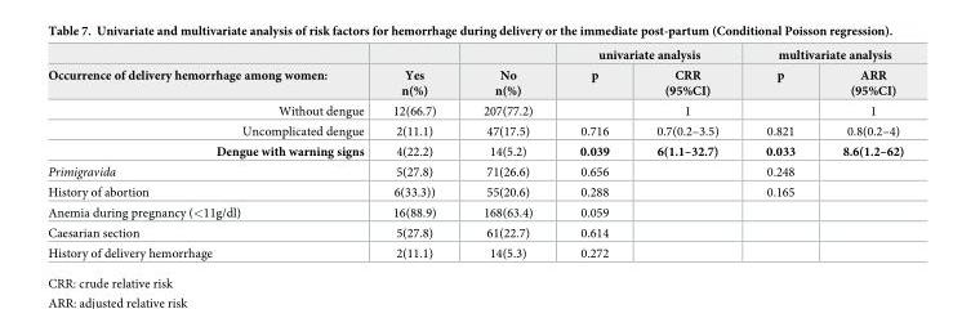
<table><thead><tr><td rowspan="2">Occurrence of delivery hemorrhage among women:</td><td rowspan="2">Yes n(%)</td><td rowspan="2">No n(%)</td><td colspan="2">univariate analysis</td><td colspan="2">multivariate analysis</td></tr><tr><td>p</td><td>CRR (95%CI)</td><td>p</td><td>ARR (95%CI)</td></tr></thead><tbody><tr><td>Without dengue</td><td>12(66.7)</td><td>207(77.2)</td><td></td><td>1</td><td></td><td>1</td></tr><tr><td>Uncomplicated dengue</td><td>2(11.1)</td><td>47(17.5)</td><td>0.716</td><td>0.7(0.2–3.5)</td><td>0.821</td><td>0.8(0.2–4)</td></tr><tr><td>Dengue with warning signs</td><td>4(22.2)</td><td>14(5.2)</td><td>0.039</td><td>6(1.1–32.7)</td><td>0.033</td><td>8.6(1.2–62)</td></tr><tr><td>Primigravida</td><td>5(27.8)</td><td>71(26.6)</td><td>0.656</td><td></td><td>0.248</td><td></td></tr><tr><td>History of abortion</td><td>6(33.3))</td><td>55(20.6)</td><td>0.288</td><td></td><td>0.165</td><td></td></tr><tr><td>Anemia during pregnancy (&lt;11g/dl)</td><td>16(88.9)</td><td>168(63.4)</td><td>0.059</td><td></td><td></td><td></td></tr><tr><td>Caesarian section</td><td>5(27.8)</td><td>61(22.7)</td><td>0.614</td><td></td><td></td><td></td></tr><tr><td>History of delivery hemorrhage</td><td>2(11.1)</td><td>14(5.3)</td><td>0.272</td><td></td><td></td><td></td></tr></tbody></table>